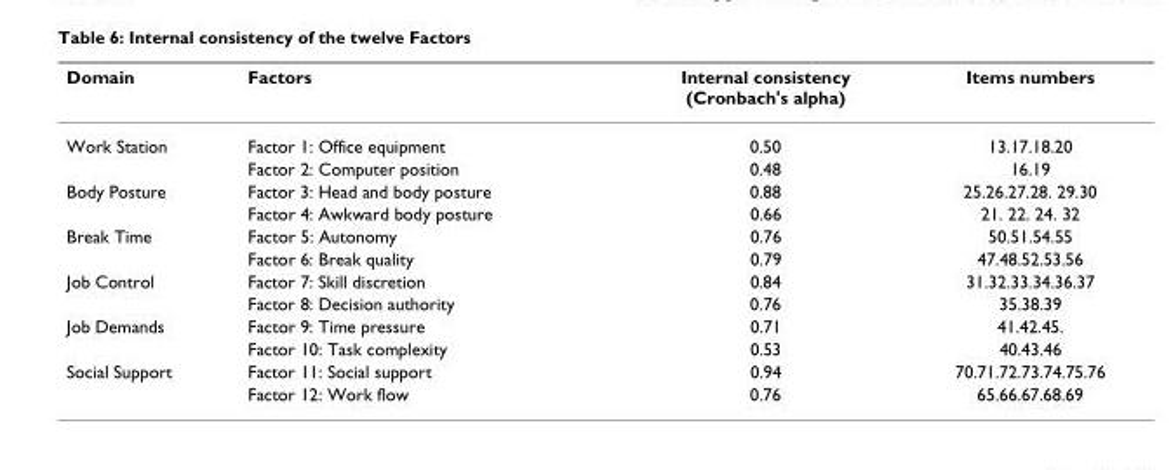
<table><thead><tr><td>Domain</td><td>Factors</td><td>Internal consistency (Cronbach&#x27;s alpha)</td><td>Items numbers</td></tr></thead><tbody><tr><td rowspan="2">Work Station</td><td>Factor 1: Office equipment</td><td>0.50</td><td>13.17.18.20</td></tr><tr><td>Factor 2: Computer position</td><td>0.48</td><td>16.19</td></tr><tr><td rowspan="2">Body Posture</td><td>Factor 3: Head and body posture</td><td>0.88</td><td>25.26.27.28. 29.30</td></tr><tr><td>Factor 4: Awkward body posture</td><td>0.66</td><td>21. 22. 24. 32</td></tr><tr><td rowspan="2">Break Time</td><td>Factor 5: Autonomy</td><td>0.76</td><td>50.51.54.55</td></tr><tr><td>Factor 6: Break quality</td><td>0.79</td><td>47.48.52.53.56</td></tr><tr><td rowspan="2">Job Control</td><td>Factor 7: Skill discretion</td><td>0.84</td><td>31.32.33.34.36.37</td></tr><tr><td>Factor 8: Decision authority</td><td>0.76</td><td>35.38.39</td></tr><tr><td rowspan="2">Job Demands</td><td>Factor 9: Time pressure</td><td>0.71</td><td>41.42.45.</td></tr><tr><td>Factor 10: Task complexity</td><td>0.53</td><td>40.43.46</td></tr><tr><td rowspan="2">Social Support</td><td>Factor 11: Social support</td><td>0.94</td><td>70.71.72.73.74.75.76</td></tr><tr><td>Factor 12: Work flow</td><td>0.76</td><td>65.66.67.68.69</td></tr></tbody></table>